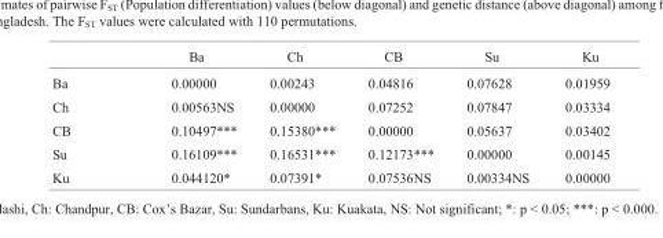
<table><thead><tr><td></td><td>Ba</td><td>Ch</td><td>CB</td><td>Su</td><td>Ku</td></tr></thead><tbody><tr><td>Ba</td><td>0.00000</td><td>0.00243</td><td>0.04816</td><td>0.07628</td><td>0.01959</td></tr><tr><td>Ch</td><td>0.00563NS</td><td>0.00000</td><td>0.07252</td><td>0.07847</td><td>0.03334</td></tr><tr><td>CB</td><td>0.10497***</td><td>0.15380***</td><td>0.00000</td><td>0.05637</td><td>0.03402</td></tr><tr><td>Su</td><td>0.16109***</td><td>0.16531***</td><td>0.12173***</td><td>0.00000</td><td>0.00145</td></tr><tr><td>Ku</td><td>0.044120*</td><td>0.07391*</td><td>0.07536NS</td><td>0.00334NS</td><td>0.00000</td></tr></tbody></table>